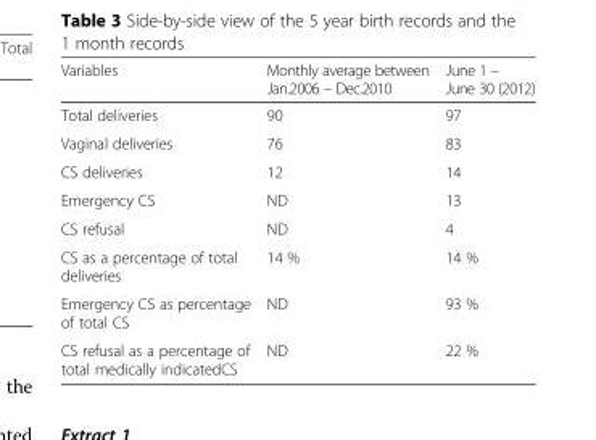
<table><thead><tr><td>Variables</td><td>Monthly average between Jan.2006 – Dec.2010</td><td>June 1 – June 30 (2012)</td></tr></thead><tbody><tr><td>Total deliveries</td><td>90</td><td>97</td></tr><tr><td>Vaginal deliveries</td><td>76</td><td>83</td></tr><tr><td>CS deliveries</td><td>12</td><td>14</td></tr><tr><td>Emergency CS</td><td>ND</td><td>13</td></tr><tr><td>CS refusal</td><td>ND</td><td>4</td></tr><tr><td>CS as a percentage of total deliveries</td><td>14 %</td><td>14 %</td></tr><tr><td>Emergency CS as percentage of total CS</td><td>ND</td><td>93 %</td></tr><tr><td>CS refusal as a percentage of total medically indicatedCS</td><td>ND</td><td>22 %</td></tr></tbody></table>